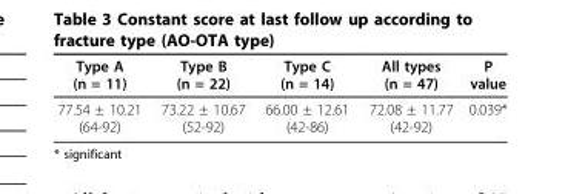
<table><thead><tr><td>Type A (n = 11)</td><td>Type B (n = 22)</td><td>Type C (n = 14)</td><td>All types (n = 47)</td><td>P value</td></tr></thead><tbody><tr><td>77.54 ± 10.21 (64-92)</td><td>73.22 ± 10.67 (52-92)</td><td>66.00 ± 12.61 (42-86)</td><td>72.08 ± 11.77 (42-92)</td><td>0.039*</td></tr></tbody></table>